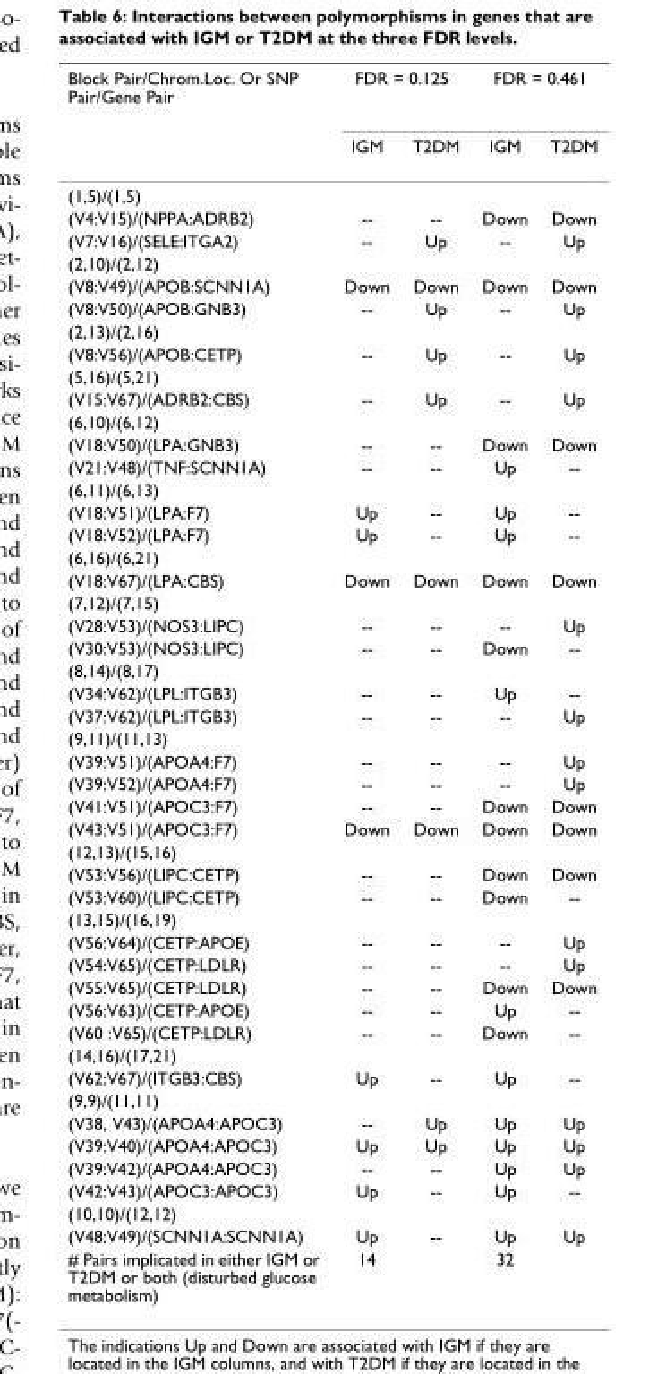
<table><thead><tr><td rowspan="2">Block Pair/Chrom.Loc. Or SNP Pair/Gene Pair</td><td colspan="2">FDR = 0.125</td><td colspan="2">FDR = 0.461</td></tr><tr><td>IGM</td><td>T2DM</td><td>IGM</td><td>T2DM</td></tr></thead><tbody><tr><td colspan="5">(1,5)/(1,5)</td></tr><tr><td>(V4:V15)/(NPPA:ADRB2)</td><td>--</td><td>--</td><td>Down</td><td>Down</td></tr><tr><td>(V7:V16)/(SELE:ITGA2)</td><td>--</td><td>Up</td><td>--</td><td>Up</td></tr><tr><td colspan="5">(2,10)/(2,12)</td></tr><tr><td>(V8:V49)/(APOB:SCNN1A)</td><td>Down</td><td>Down</td><td>Down</td><td>Down</td></tr><tr><td>(V8:V50)/(APOB:GNB3)</td><td>--</td><td>Up</td><td>--</td><td>Up</td></tr><tr><td colspan="5">(2,13)/(2,16)</td></tr><tr><td>(V8:V56)/(APOB:CETP)</td><td>--</td><td>Up</td><td>--</td><td>Up</td></tr><tr><td colspan="5">(5,16)/(5,21)</td></tr><tr><td>(V15:V67)/(ADRB2:CBS)</td><td>--</td><td>Up</td><td>--</td><td>Up</td></tr><tr><td colspan="5">(6,10)/(6,12)</td></tr><tr><td>(V18:V50)/(LPA:GNB3)</td><td>--</td><td>--</td><td>Down</td><td>Down</td></tr><tr><td>(V21:V48)/(TNF:SCNN1A)</td><td>--</td><td>--</td><td>Up</td><td>--</td></tr><tr><td colspan="5">(6,11)/(6,13)</td></tr><tr><td>(V18:V51)/(LPA:F7)</td><td>Up</td><td>--</td><td>Up</td><td>--</td></tr><tr><td>(V18:V52)/(LPA:F7)</td><td>Up</td><td>--</td><td>Up</td><td>--</td></tr><tr><td colspan="5">(6,16)/(6,21)</td></tr><tr><td>(V18:V67)/(LPA:CBS)</td><td>Down</td><td>Down</td><td>Down</td><td>Down</td></tr><tr><td colspan="5">(7,12)/(7,15)</td></tr><tr><td>(V28:V53)/(NOS3:LIPC)</td><td>--</td><td>--</td><td>--</td><td>Up</td></tr><tr><td>(V30:V53)/(NOS3:LIPC)</td><td>--</td><td>--</td><td>Down</td><td>--</td></tr><tr><td colspan="5">(8,14)/(8,17)</td></tr><tr><td>(V34:V62)/(LPL:ITGB3)</td><td>--</td><td>--</td><td>Up</td><td>--</td></tr><tr><td>(V37:V62)/(LPL:ITGB3)</td><td>--</td><td>--</td><td>--</td><td>Up</td></tr><tr><td colspan="5">(9,11)/(11,13)</td></tr><tr><td>(V39:V51)/(APOA4:F7)</td><td>--</td><td>--</td><td>--</td><td>Up</td></tr><tr><td>(V39:V52)/(APOA4:F7)</td><td>--</td><td>--</td><td>--</td><td>Up</td></tr><tr><td>(V41:V51)/(APOC3:F7)</td><td>--</td><td>--</td><td>Down</td><td>Down</td></tr><tr><td>(V43:V51)/(APOC3:F7)</td><td>Down</td><td>Down</td><td>Down</td><td>Down</td></tr><tr><td colspan="5">(12,13)/(15,16)</td></tr><tr><td>(V53:V56)/(LIPC:CETP)</td><td>--</td><td>--</td><td>Down</td><td>Down</td></tr><tr><td>(V53:V60)/(LIPC:CETP)</td><td>--</td><td>--</td><td>Down</td><td>--</td></tr><tr><td colspan="5">(13,15)/(16,19)</td></tr><tr><td>(V56:V64)/(CETP:APOE)</td><td>--</td><td>--</td><td>--</td><td>Up</td></tr><tr><td>(V54:V65)/(CETP:LDLR)</td><td>--</td><td>--</td><td>--</td><td>Up</td></tr><tr><td>(V55:V65)/(CETP:LDLR)</td><td>--</td><td>--</td><td>Down</td><td>Down</td></tr><tr><td>(V56:V63)/(CETP:APOE)</td><td>--</td><td>--</td><td>Up</td><td>--</td></tr><tr><td>(V60 :V65)/(CETP:LDLR)</td><td>--</td><td>--</td><td>Down</td><td>--</td></tr><tr><td colspan="5">(14,16)/(17,21)</td></tr><tr><td>(V62:V67)/(ITGB3:CBS)</td><td>Up</td><td>--</td><td>Up</td><td>--</td></tr><tr><td colspan="5">(9,9)/(11,11)</td></tr><tr><td>(V38, V43)/(APOA4:APOC3)</td><td>--</td><td>Up</td><td>Up</td><td>Up</td></tr><tr><td>(V39:V40)/(APOA4:APOC3)</td><td>Up</td><td>Up</td><td>Up</td><td>Up</td></tr><tr><td>(V39:V42)/(APOA4:APOC3)</td><td>--</td><td>--</td><td>Up</td><td>Up</td></tr><tr><td>(V42:V43)/(APOC3:APOC3)</td><td>Up</td><td>--</td><td>Up</td><td>--</td></tr><tr><td colspan="5">(10,10)/(12,12)</td></tr><tr><td>(V48:V49)/(SCNN1A:SCNN1A)</td><td>Up</td><td>--</td><td>Up</td><td>Up</td></tr><tr><td># Pairs implicated in either IGM or T2DM or both (disturbed glucose metabolism)</td><td>14</td><td></td><td>32</td><td></td></tr></tbody></table>